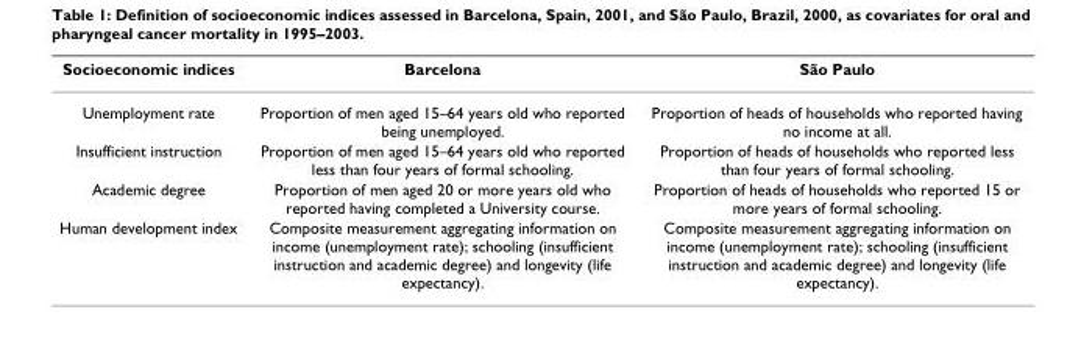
<table><thead><tr><td>Socioeconomic indices</td><td>Barcelona</td><td>São Paulo</td></tr></thead><tbody><tr><td>Unemployment rate</td><td>Proportion of men aged 15–64 years old who reported being unemployed.</td><td>Proportion of heads of households who reported having no income at all.</td></tr><tr><td>Insufficient instruction</td><td>Proportion of men aged 15–64 years old who reported less than four years of formal schooling.</td><td>Proportion of heads of households who reported less than four years of formal schooling.</td></tr><tr><td>Academic degree</td><td>Proportion of men aged 20 or more years old who reported having completed a University course.</td><td>Proportion of heads of households who reported 15 or more years of formal schooling.</td></tr><tr><td>Human development index</td><td>Composite measurement aggregating information on income (unemployment rate); schooling (insufficient instruction and academic degree) and longevity (life expectancy).</td><td>Composite measurement aggregating information on income (unemployment rate); schooling (insufficient instruction and academic degree) and longevity (life expectancy).</td></tr></tbody></table>